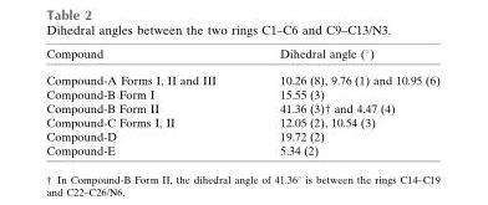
<table><thead><tr><td>Compound</td><td>Dihedral angle (°)</td></tr></thead><tbody><tr><td>Compound-A Forms I, II and III</td><td>10.26 (8), 9.76 (1) and 10.95 (6)</td></tr><tr><td>Compound-B Form I</td><td>15.55 (3)</td></tr><tr><td>Compound-B Form II</td><td>41.36 (3)† and 4.47 (4)</td></tr><tr><td>Compound-C Forms I, II</td><td>12.05 (2), 10.54 (3)</td></tr><tr><td>Compound-D</td><td>19.72 (2)</td></tr><tr><td>Compound-E</td><td>5.34 (2)</td></tr></tbody></table>